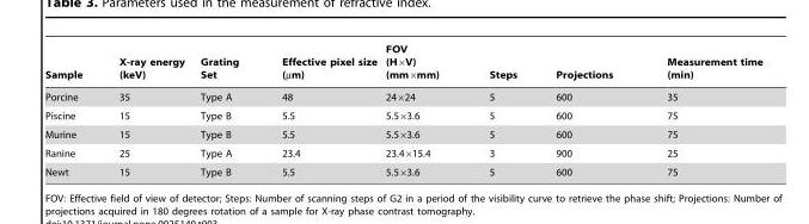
<table><thead><tr><td>Sample</td><td>X-ray energy (keV)</td><td>Grating Set</td><td>Effective pixel size (µm)</td><td>FOV (H×V) (mm×mm)</td><td>Steps</td><td>Projections</td><td>Measurement time (min)</td></tr></thead><tbody><tr><td>Porcine</td><td>35</td><td>Type A</td><td>48</td><td>24×24</td><td>5</td><td>600</td><td>35</td></tr><tr><td>Piscine</td><td>15</td><td>Type B</td><td>5.5</td><td>5.5×3.6</td><td>5</td><td>600</td><td>75</td></tr><tr><td>Murine</td><td>15</td><td>Type B</td><td>5.5</td><td>5.5×3.6</td><td>5</td><td>600</td><td>75</td></tr><tr><td>Ranine</td><td>25</td><td>Type A</td><td>23.4</td><td>23.4×15.4</td><td>3</td><td>900</td><td>25</td></tr><tr><td>Newt</td><td>15</td><td>Type B</td><td>5.5</td><td>5.5×3.6</td><td>5</td><td>600</td><td>75</td></tr></tbody></table>